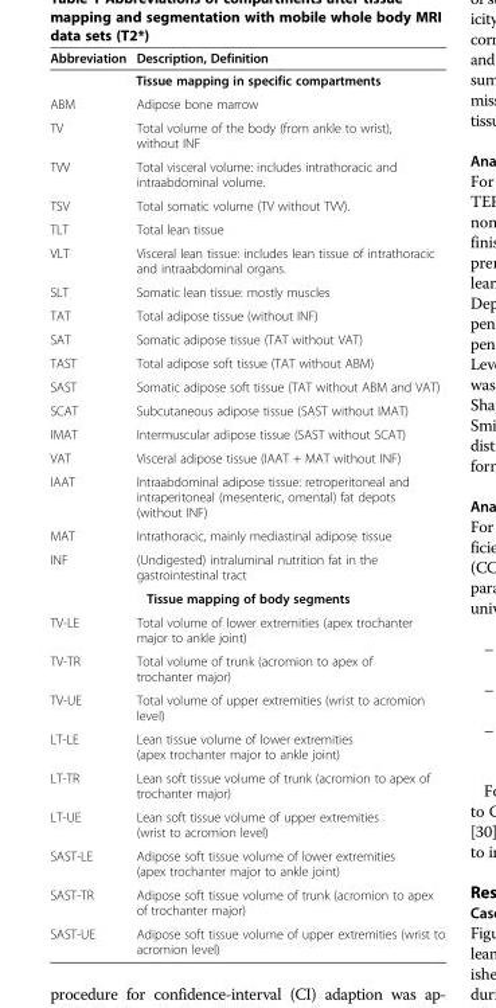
<table><thead><tr><td>Abbreviation</td><td>Description, Definition</td></tr></thead><tbody><tr><td></td><td>Tissue mapping in specific compartments</td></tr><tr><td>ABM</td><td>Adipose bone marrow</td></tr><tr><td>TV</td><td>Total volume of the body (from ankle to wrist), without INF</td></tr><tr><td>TVV</td><td>Total visceral volume: includes intrathoracic and intraabdominal volume.</td></tr><tr><td>TSV</td><td>Total somatic volume (TV without TVV).</td></tr><tr><td>TLT</td><td>Total lean tissue</td></tr><tr><td>VLT</td><td>Visceral lean tissue: includes lean tissue of intrathoracic and intraabdominal organs.</td></tr><tr><td>SLT</td><td>Somatic lean tissue: mostly muscles</td></tr><tr><td>TAT</td><td>Total adipose tissue (without INF)</td></tr><tr><td>SAT</td><td>Somatic adipose tissue (TAT without VAT)</td></tr><tr><td>TAST</td><td>Total adipose soft tissue (TAT without ABM)</td></tr><tr><td>SAST</td><td>Somatic adipose soft tissue (TAT without ABM and VAT)</td></tr><tr><td>SCAT</td><td>Subcutaneous adipose tissue (SAST without IMAT)</td></tr><tr><td>IMAT</td><td>Intermuscular adipose tissue (SAST without SCAT)</td></tr><tr><td>VAT</td><td>Visceral adipose tissue (IAAT + MAT without INF)</td></tr><tr><td>IAAT</td><td>Intraabdominal adipose tissue: retroperitoneal and intraperitoneal (mesenteric, omental) fat depots (without INF)</td></tr><tr><td>MAT</td><td>Intrathoracic, mainly mediastinal adipose tissue</td></tr><tr><td rowspan="2">INF</td><td>(Undigested) intraluminal nutrition fat in the gastrointestinal tract</td></tr><tr><td>Tissue mapping of body segments</td></tr><tr><td>TV-LE</td><td>Total volume of lower extremities (apex trochanter major to ankle joint)</td></tr><tr><td>TV-TR</td><td>Total volume of trunk (acromion to apex of trochanter major)</td></tr><tr><td>TV-UE</td><td>Total volume of upper extremities (wrist to acromion level)</td></tr><tr><td>LT-LE</td><td>Lean tissue volume of lower extremities (apex trochanter major to ankle joint)</td></tr><tr><td>LT-TR</td><td>Lean soft tissue volume of trunk (acromion to apex of trochanter major)</td></tr><tr><td>LT-UE</td><td>Lean soft tissue volume of upper extremities (wrist to acromion level)</td></tr><tr><td>SAST-LE</td><td>Adipose soft tissue volume of lower extremities (apex trochanter major to ankle joint)</td></tr><tr><td>SAST-TR</td><td>Adipose soft tissue volume of trunk (acromion to apex of trochanter major)</td></tr><tr><td>SAST-UE</td><td>Adipose soft tissue volume of upper extremities (wrist to acromion level)</td></tr></tbody></table>